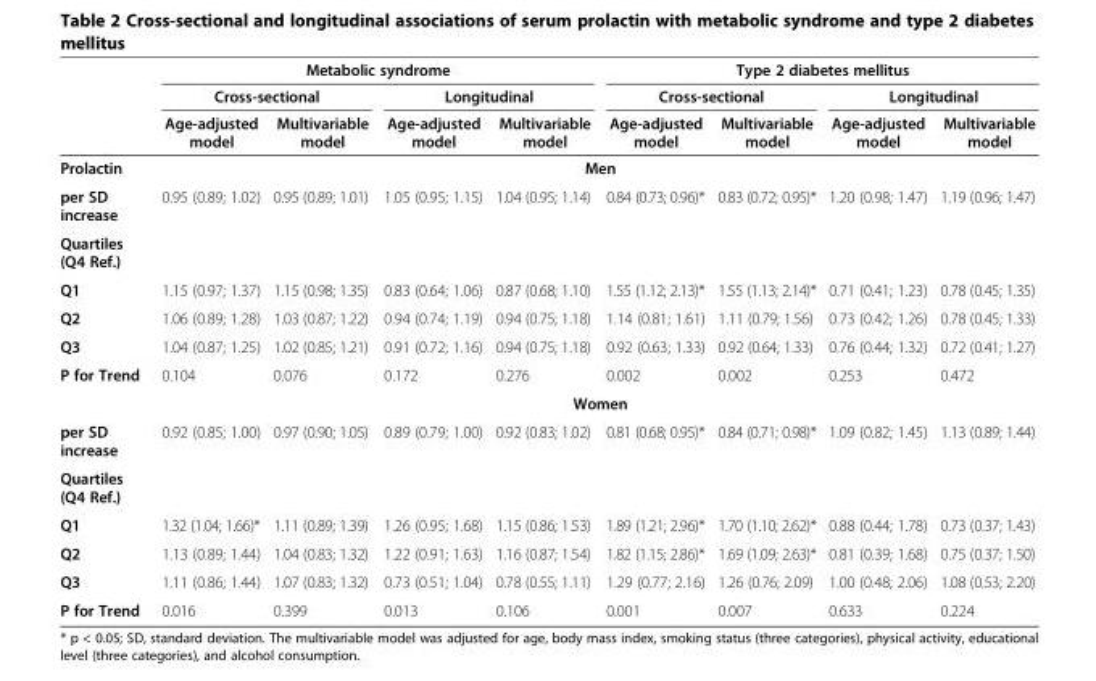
<table><thead><tr><td rowspan="3"></td><td colspan="4">Metabolic syndrome</td><td colspan="4">Type 2 diabetes mellitus</td></tr><tr><td colspan="2">Cross-sectional</td><td colspan="2">Longitudinal</td><td colspan="2">Cross-sectional</td><td colspan="2">Longitudinal</td></tr><tr><td>Age-adjusted model</td><td>Multivariable model</td><td>Age-adjusted model</td><td>Multivariable model</td><td>Age-adjusted model</td><td>Multivariable model</td><td>Age-adjusted model</td><td>Multivariable model</td></tr></thead><tbody><tr><td>Prolactin</td><td colspan="8">Men</td></tr><tr><td>per SD increase</td><td>0.95 (0.89; 1.02)</td><td>0.95 (0.89; 1.01)</td><td>1.05 (0.95; 1.15)</td><td>1.04 (0.95; 1.14)</td><td>0.84 (0.73; 0.96)*</td><td>0.83 (0.72; 0.95)*</td><td>1.20 (0.98; 1.47)</td><td>1.19 (0.96; 1.47)</td></tr><tr><td colspan="9">Quartiles (Q4 Ref.)</td></tr><tr><td>Q1</td><td>1.15 (0.97; 1.37)</td><td>1.15 (0.98; 1.35)</td><td>0.83 (0.64; 1.06)</td><td>0.87 (0.68; 1.10)</td><td>1.55 (1.12; 2.13)*</td><td>1.55 (1.13; 2.14)*</td><td>0.71 (0.41; 1.23)</td><td>0.78 (0.45; 1.35)</td></tr><tr><td>Q2</td><td>1.06 (0.89; 1.28)</td><td>1.03 (0.87; 1.22)</td><td>0.94 (0.74; 1.19)</td><td>0.94 (0.75; 1.18)</td><td>1.14 (0.81; 1.61)</td><td>1.11 (0.79; 1.56)</td><td>0.73 (0.42; 1.26)</td><td>0.78 (0.45; 1.33)</td></tr><tr><td>Q3</td><td>1.04 (0.87; 1.25)</td><td>1.02 (0.85; 1.21)</td><td>0.91 (0.72; 1.16)</td><td>0.94 (0.75; 1.18)</td><td>0.92 (0.63; 1.33)</td><td>0.92 (0.64; 1.33)</td><td>0.76 (0.44; 1.32)</td><td>0.72 (0.41; 1.27)</td></tr><tr><td rowspan="2">P for Trend</td><td>0.104</td><td>0.076</td><td>0.172</td><td>0.276</td><td>0.002</td><td>0.002</td><td>0.253</td><td>0.472</td></tr><tr><td colspan="8">Women</td></tr><tr><td>per SD increase</td><td>0.92 (0.85; 1.00)</td><td>0.97 (0.90; 1.05)</td><td>0.89 (0.79; 1.00)</td><td>0.92 (0.83; 1.02)</td><td>0.81 (0.68; 0.95)*</td><td>0.84 (0.71; 0.98)*</td><td>1.09 (0.82; 1.45)</td><td>1.13 (0.89; 1.44)</td></tr><tr><td colspan="9">Quartiles (Q4 Ref.)</td></tr><tr><td>Q1</td><td>1.32 (1.04; 1.66)*</td><td>1.11 (0.89; 1.39)</td><td>1.26 (0.95; 1.68)</td><td>1.15 (0.86; 1.53)</td><td>1.89 (1.21; 2.96)*</td><td>1.70 (1.10; 2.62)*</td><td>0.88 (0.44; 1.78)</td><td>0.73 (0.37; 1.43)</td></tr><tr><td>Q2</td><td>1.13 (0.89; 1.44)</td><td>1.04 (0.83; 1.32)</td><td>1.22 (0.91; 1.63)</td><td>1.16 (0.87; 1.54)</td><td>1.82 (1.15; 2.86)*</td><td>1.69 (1.09; 2.63)*</td><td>0.81 (0.39; 1.68)</td><td>0.75 (0.37; 1.50)</td></tr><tr><td>Q3</td><td>1.11 (0.86; 1.44)</td><td>1.07 (0.83; 1.32)</td><td>0.73 (0.51; 1.04)</td><td>0.78 (0.55; 1.11)</td><td>1.29 (0.77; 2.16)</td><td>1.26 (0.76; 2.09)</td><td>1.00 (0.48; 2.06)</td><td>1.08 (0.53; 2.20)</td></tr><tr><td>P for Trend</td><td>0.016</td><td>0.399</td><td>0.013</td><td>0.106</td><td>0.001</td><td>0.007</td><td>0.633</td><td>0.224</td></tr></tbody></table>